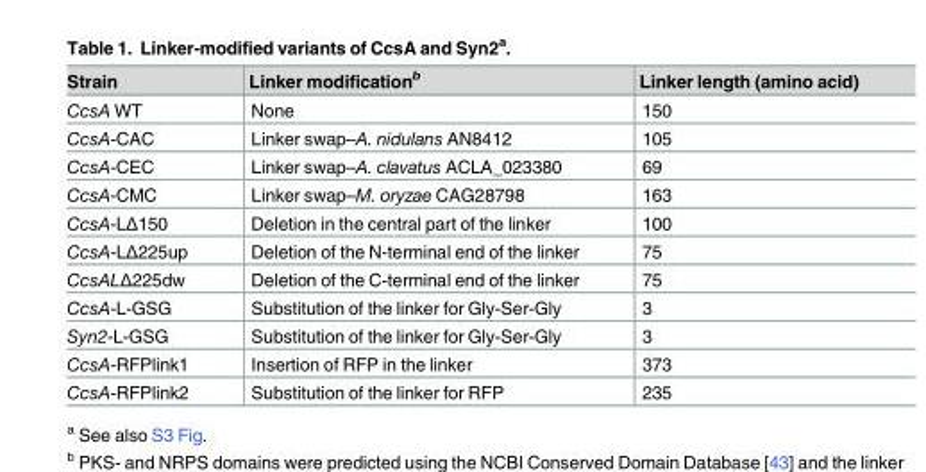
<table><thead><tr><td>Strain</td><td>Linker modification<sup>b</sup></td><td>Linker length (amino acid)</td></tr></thead><tbody><tr><td>CcsA WT</td><td>None</td><td>150</td></tr><tr><td>CcsA-CAC</td><td>Linker swap–A. nidulans AN8412</td><td>105</td></tr><tr><td>CcsA-CEC</td><td>Linker swap–A. clavatus ACLA_023380</td><td>69</td></tr><tr><td>CcsA-CMC</td><td>Linker swap–M. oryzae CAG28798</td><td>163</td></tr><tr><td>CcsA-LΔ150</td><td>Deletion in the central part of the linker</td><td>100</td></tr><tr><td>CcsA-LΔ225up</td><td>Deletion of the N-terminal end of the linker</td><td>75</td></tr><tr><td>CcsALΔ225dw</td><td>Deletion of the C-terminal end of the linker</td><td>75</td></tr><tr><td>CcsA-L-GSG</td><td>Substitution of the linker for Gly-Ser-Gly</td><td>3</td></tr><tr><td>Syn2-L-GSG</td><td>Substitution of the linker for Gly-Ser-Gly</td><td>3</td></tr><tr><td>CcsA-RFPlink1</td><td>Insertion of RFP in the linker</td><td>373</td></tr><tr><td>CcsA-RFPlink2</td><td>Substitution of the linker for RFP</td><td>235</td></tr></tbody></table>